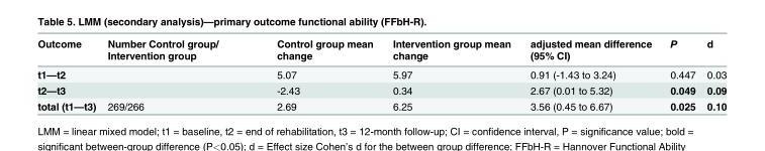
<table><thead><tr><td>Outcome</td><td>Number Control group/ Intervention group</td><td>Control group mean change</td><td>Intervention group mean change</td><td>adjusted mean difference (95% CI)</td><td>P</td><td>d</td></tr></thead><tbody><tr><td>t1—t2</td><td></td><td>5.07</td><td>5.97</td><td>0.91 (-1.43 to 3.24)</td><td>0.447</td><td>0.03</td></tr><tr><td>t2—t3</td><td></td><td>-2.43</td><td>0.34</td><td>2.67 (0.01 to 5.32)</td><td>0.049</td><td>0.09</td></tr><tr><td>total (t1—t3)</td><td>269/266</td><td>2.69</td><td>6.25</td><td>3.56 (0.45 to 6.67)</td><td>0.025</td><td>0.10</td></tr></tbody></table>